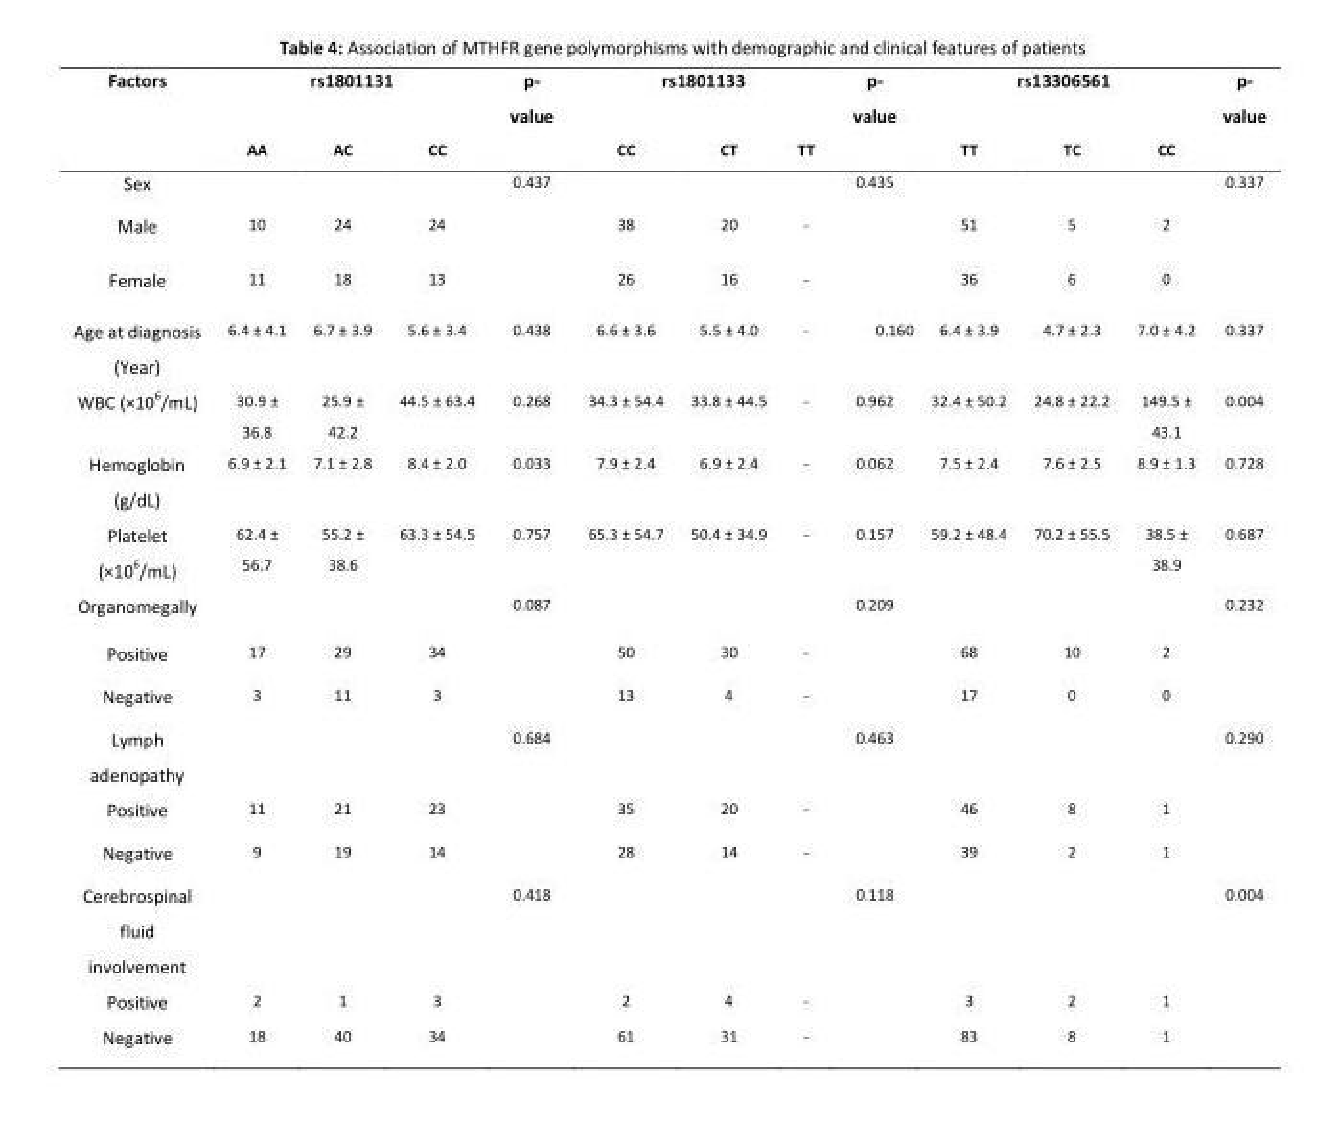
<table><thead><tr><td rowspan="2">Factors</td><td colspan="3">rs1801131</td><td rowspan="2">p- value</td><td colspan="3">rs1801133</td><td rowspan="2">p- value</td><td colspan="3">rs13306561</td><td rowspan="2">p- value</td></tr><tr><td>AA</td><td>AC</td><td>CC</td><td>CC</td><td>CT</td><td>TT</td><td>TT</td><td>TC</td><td>CC</td></tr></thead><tbody><tr><td>Sex</td><td></td><td></td><td></td><td>0.437</td><td></td><td></td><td></td><td>0.435</td><td></td><td></td><td></td><td>0.337</td></tr><tr><td>Male</td><td>10</td><td>24</td><td>24</td><td></td><td>38</td><td>20</td><td>-</td><td></td><td>51</td><td>5</td><td>2</td><td></td></tr><tr><td>Female</td><td>11</td><td>18</td><td>13</td><td></td><td>26</td><td>16</td><td>-</td><td></td><td>36</td><td>6</td><td>0</td><td></td></tr><tr><td>Age at diagnosis (Year)</td><td>6.4 ± 4.1</td><td>6.7 ± 3.9</td><td>5.6 ± 3.4</td><td>0.438</td><td>6.6 ± 3.6</td><td>5.5 ± 4.0</td><td>-</td><td>0.160</td><td>6.4 ± 3.9</td><td>4.7 ± 2.3</td><td>7.0 ± 4.2</td><td>0.337</td></tr><tr><td>WBC (×10<sup>6</sup>/mL)</td><td>30.9 ± 36.8</td><td>25.9 ± 42.2</td><td>44.5 ± 63.4</td><td>0.268</td><td>34.3 ± 54.4</td><td>33.8 ± 44.5</td><td>-</td><td>0.962</td><td>32.4 ± 50.2</td><td>24.8 ± 22.2</td><td>149.5 ± 43.1</td><td>0.004</td></tr><tr><td>Hemoglobin (g/dL)</td><td>6.9 ± 2.1</td><td>7.1 ± 2.8</td><td>8.4 ± 2.0</td><td>0.033</td><td>7.9 ± 2.4</td><td>6.9 ± 2.4</td><td>-</td><td>0.062</td><td>7.5 ± 2.4</td><td>7.6 ± 2.5</td><td>8.9 ± 1.3</td><td>0.728</td></tr><tr><td>Platelet (×10<sup>6</sup>/mL)</td><td>62.4 ± 56.7</td><td>55.2 ± 38.6</td><td>63.3 ± 54.5</td><td>0.757</td><td>65.3 ± 54.7</td><td>50.4 ± 34.9</td><td>-</td><td>0.157</td><td>59.2 ± 48.4</td><td>70.2 ± 55.5</td><td>38.5 ± 38.9</td><td>0.687</td></tr><tr><td>Organomegally</td><td></td><td></td><td></td><td>0.087</td><td></td><td></td><td></td><td>0.209</td><td></td><td></td><td></td><td>0.232</td></tr><tr><td>Positive</td><td>17</td><td>29</td><td>34</td><td></td><td>50</td><td>30</td><td>-</td><td></td><td>68</td><td>10</td><td>2</td><td></td></tr><tr><td>Negative</td><td>3</td><td>11</td><td>3</td><td></td><td>13</td><td>4</td><td>-</td><td></td><td>17</td><td>0</td><td>0</td><td></td></tr><tr><td>Lymph adenopathy</td><td></td><td></td><td></td><td>0.684</td><td></td><td></td><td></td><td>0.463</td><td></td><td></td><td></td><td>0.290</td></tr><tr><td>Positive</td><td>11</td><td>21</td><td>23</td><td></td><td>35</td><td>20</td><td>-</td><td></td><td>46</td><td>8</td><td>1</td><td></td></tr><tr><td>Negative</td><td>9</td><td>19</td><td>14</td><td></td><td>28</td><td>14</td><td>-</td><td></td><td>39</td><td>2</td><td>1</td><td></td></tr><tr><td>Cerebrospinal fluid involvement</td><td></td><td></td><td></td><td>0.418</td><td></td><td></td><td></td><td>0.118</td><td></td><td></td><td></td><td>0.004</td></tr><tr><td>Positive</td><td>2</td><td>1</td><td>3</td><td></td><td>2</td><td>4</td><td>-</td><td></td><td>3</td><td>2</td><td>1</td><td></td></tr><tr><td>Negative</td><td>18</td><td>40</td><td>34</td><td></td><td>61</td><td>31</td><td>-</td><td></td><td>83</td><td>8</td><td>1</td><td></td></tr></tbody></table>